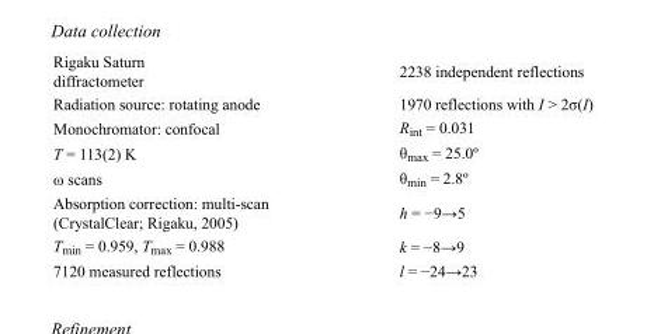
<table><tbody><tr><td>Rigaku Saturn diffractometer</td><td>2238 independent reflections</td></tr><tr><td>Radiation source: rotating anode</td><td>1970 reflections with I &gt; 2σ(I)</td></tr><tr><td>Monochromator: confocal</td><td>R<sub>int</sub> = 0.031</td></tr><tr><td>T = 113(2) K</td><td>θ<sub>max</sub> = 25.0º</td></tr><tr><td>ω scans</td><td>θ<sub>min</sub> = 2.8º</td></tr><tr><td>Absorption correction: multi-scan (CrystalClear; Rigaku, 2005)</td><td>h = −9→5</td></tr><tr><td>T<sub>min</sub> = 0.959, T<sub>max</sub> = 0.988</td><td>k = −8→9</td></tr><tr><td>7120 measured reflections</td><td>l = −24→23</td></tr></tbody></table>